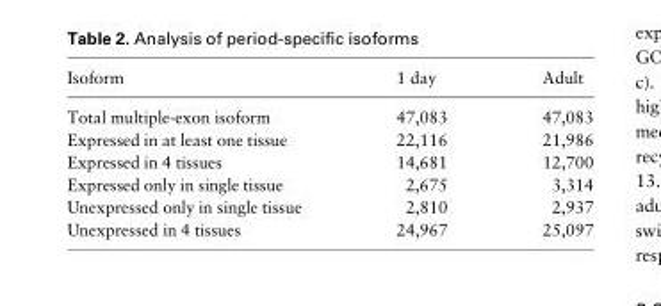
<table><thead><tr><td>Isoform</td><td>1 day</td><td>Adult</td></tr></thead><tbody><tr><td>Total multiple-exon isoform</td><td>47,083</td><td>47,083</td></tr><tr><td>Expressed in at least one tissue</td><td>22,116</td><td>21,986</td></tr><tr><td>Expressed in 4 tissues</td><td>14,681</td><td>12,700</td></tr><tr><td>Expressed only in single tissue</td><td>2,675</td><td>3,314</td></tr><tr><td>Unexpressed only in single tissue</td><td>2,810</td><td>2,937</td></tr><tr><td>Unexpressed in 4 tissues</td><td>24,967</td><td>25,097</td></tr></tbody></table>